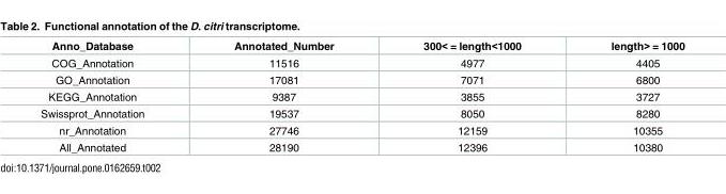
<table><thead><tr><td>Anno_Database</td><td>Annotated_Number</td><td>300&lt; = length&lt;1000</td><td>length&gt; = 1000</td></tr></thead><tbody><tr><td>COG_Annotation</td><td>11516</td><td>4977</td><td>4405</td></tr><tr><td>GO_Annotation</td><td>17081</td><td>7071</td><td>6800</td></tr><tr><td>KEGG_Annotation</td><td>9387</td><td>3855</td><td>3727</td></tr><tr><td>Swissprot_Annotation</td><td>19537</td><td>8050</td><td>8280</td></tr><tr><td>nr_Annotation</td><td>27746</td><td>12159</td><td>10355</td></tr><tr><td>All_Annotated</td><td>28190</td><td>12396</td><td>10380</td></tr></tbody></table>